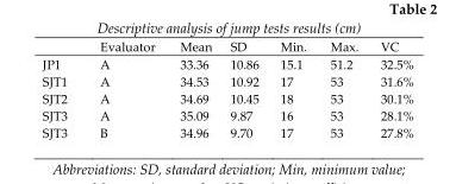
<table><thead><tr><td></td><td>Evaluator</td><td>Mean</td><td>SD</td><td>Min.</td><td>Max.</td><td>VC</td></tr></thead><tbody><tr><td>JP1</td><td>A</td><td>33.36</td><td>10.86</td><td>15.1</td><td>51.2</td><td>32.5%</td></tr><tr><td>SJT1</td><td>A</td><td>34.53</td><td>10.92</td><td>17</td><td>53</td><td>31.6%</td></tr><tr><td>SJT2</td><td>A</td><td>34.69</td><td>10.45</td><td>18</td><td>53</td><td>30.1%</td></tr><tr><td>SJT3</td><td>A</td><td>35.09</td><td>9.87</td><td>16</td><td>53</td><td>28.1%</td></tr><tr><td>SJT3</td><td>B</td><td>34.96</td><td>9.70</td><td>17</td><td>53</td><td>27.8%</td></tr></tbody></table>